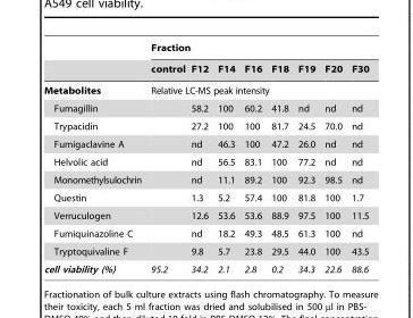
<table><thead><tr><td rowspan="2"></td><td colspan="8">Fraction</td></tr><tr><td>control</td><td>F12</td><td>F14</td><td>F16</td><td>F18</td><td>F19</td><td>F20</td><td>F30</td></tr></thead><tbody><tr><td>Metabolites</td><td colspan="8">Relative LC-MS peak intensity</td></tr><tr><td>Fumagillin</td><td></td><td>58.2</td><td>100</td><td>60.2</td><td>41.8</td><td>nd</td><td>nd</td><td>nd</td></tr><tr><td>Trypacidin</td><td></td><td>27.2</td><td>100</td><td>100</td><td>81.7</td><td>24.5</td><td>70.0</td><td>nd</td></tr><tr><td>Fumigaclavine A</td><td></td><td>nd</td><td>46.3</td><td>100</td><td>47.2</td><td>26.0</td><td>nd</td><td>nd</td></tr><tr><td>Helvolic acid</td><td></td><td>nd</td><td>56.5</td><td>83.1</td><td>100</td><td>77.2</td><td>nd</td><td>nd</td></tr><tr><td>Monomethylsulochrin</td><td></td><td>nd</td><td>11.1</td><td>89.2</td><td>100</td><td>92.3</td><td>98.5</td><td>nd</td></tr><tr><td>Questin</td><td></td><td>1.3</td><td>5.2</td><td>57.4</td><td>100</td><td>81.8</td><td>100</td><td>1.7</td></tr><tr><td>Verruculogen</td><td></td><td>12.6</td><td>53.6</td><td>53.6</td><td>88.9</td><td>97.5</td><td>100</td><td>11.5</td></tr><tr><td>Fumiquinazoline C</td><td></td><td>nd</td><td>18.2</td><td>49.3</td><td>48.5</td><td>61.3</td><td>100</td><td>nd</td></tr><tr><td>Tryptoquivaline F</td><td></td><td>9.8</td><td>5.7</td><td>23.8</td><td>29.5</td><td>44.0</td><td>100</td><td>43.5</td></tr><tr><td>cell viability (%)</td><td>95.2</td><td>34.2</td><td>2.1</td><td>2.8</td><td>0.2</td><td>34.3</td><td>22.6</td><td>88.6</td></tr></tbody></table>